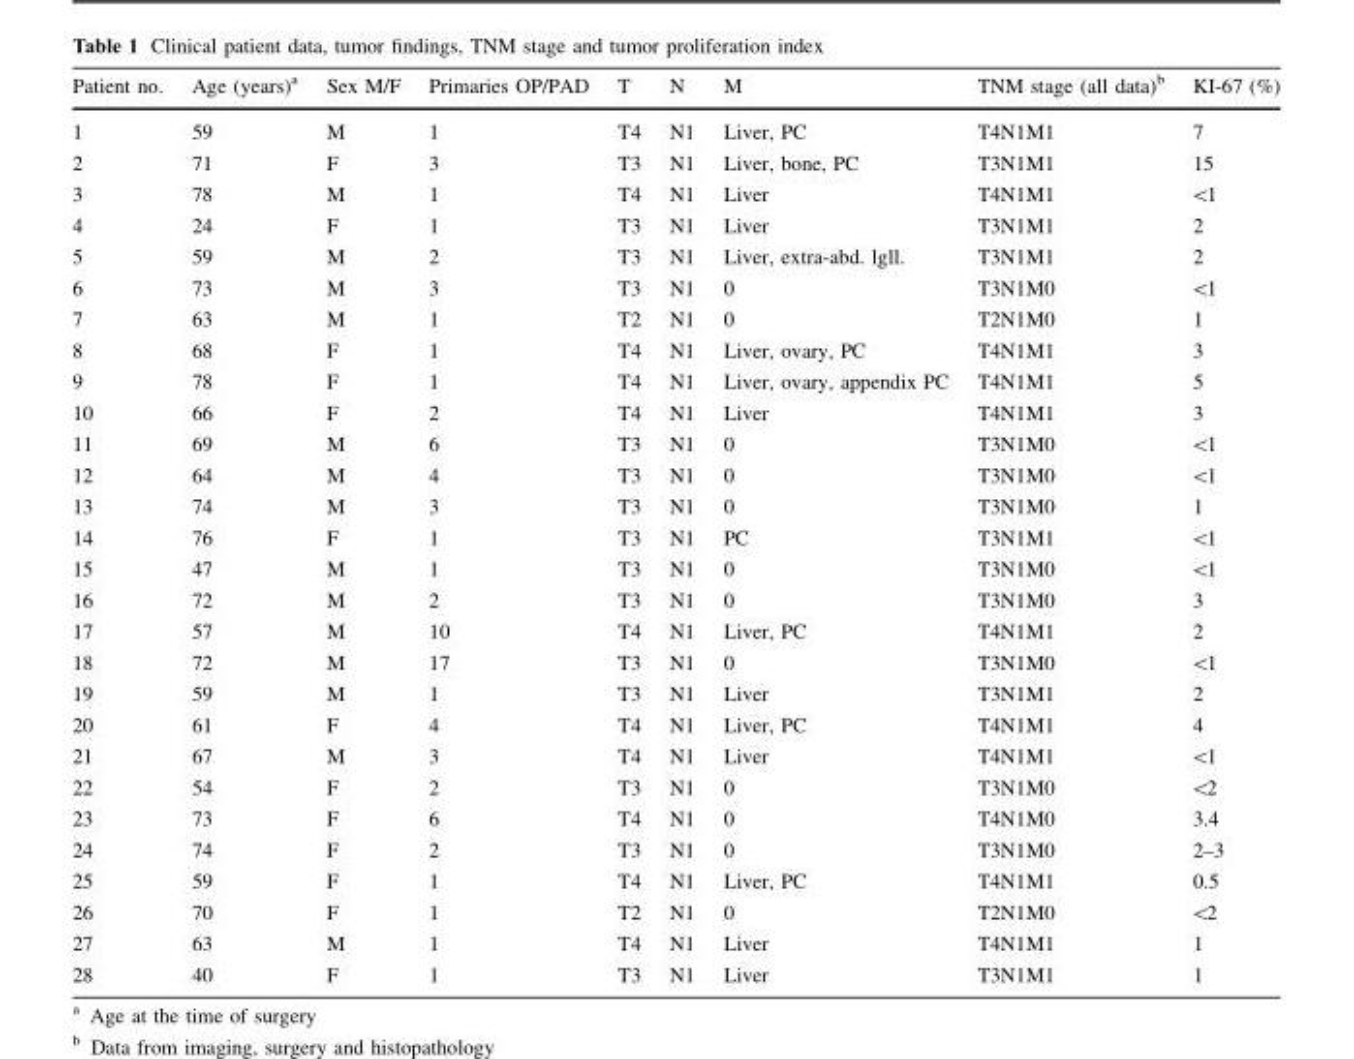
<table><thead><tr><td>Patient no.</td><td>Age (years)<sup>a</sup></td><td>Sex M/F</td><td>Primaries OP/PAD</td><td>T</td><td>N</td><td>M</td><td>TNM stage (all data)<sup>b</sup></td><td>KI-67 (%)</td></tr></thead><tbody><tr><td>1</td><td>59</td><td>M</td><td>1</td><td>T4</td><td>N1</td><td>Liver, PC</td><td>T4N1M1</td><td>7</td></tr><tr><td>2</td><td>71</td><td>F</td><td>3</td><td>T3</td><td>N1</td><td>Liver, bone, PC</td><td>T3N1M1</td><td>15</td></tr><tr><td>3</td><td>78</td><td>M</td><td>1</td><td>T4</td><td>N1</td><td>Liver</td><td>T4N1M1</td><td>&lt;1</td></tr><tr><td>4</td><td>24</td><td>F</td><td>1</td><td>T3</td><td>N1</td><td>Liver</td><td>T3N1M1</td><td>2</td></tr><tr><td>5</td><td>59</td><td>M</td><td>2</td><td>T3</td><td>N1</td><td>Liver, extra-abd. lgll.</td><td>T3N1M1</td><td>2</td></tr><tr><td>6</td><td>73</td><td>M</td><td>3</td><td>T3</td><td>N1</td><td>0</td><td>T3N1M0</td><td>&lt;1</td></tr><tr><td>7</td><td>63</td><td>M</td><td>1</td><td>T2</td><td>N1</td><td>0</td><td>T2N1M0</td><td>1</td></tr><tr><td>8</td><td>68</td><td>F</td><td>1</td><td>T4</td><td>N1</td><td>Liver, ovary, PC</td><td>T4N1M1</td><td>3</td></tr><tr><td>9</td><td>78</td><td>F</td><td>1</td><td>T4</td><td>N1</td><td>Liver, ovary, appendix PC</td><td>T4N1M1</td><td>5</td></tr><tr><td>10</td><td>66</td><td>F</td><td>2</td><td>T4</td><td>N1</td><td>Liver</td><td>T4N1M1</td><td>3</td></tr><tr><td>11</td><td>69</td><td>M</td><td>6</td><td>T3</td><td>N1</td><td>0</td><td>T3N1M0</td><td>&lt;1</td></tr><tr><td>12</td><td>64</td><td>M</td><td>4</td><td>T3</td><td>N1</td><td>0</td><td>T3N1M0</td><td>&lt;1</td></tr><tr><td>13</td><td>74</td><td>M</td><td>3</td><td>T3</td><td>N1</td><td>0</td><td>T3N1M0</td><td>1</td></tr><tr><td>14</td><td>76</td><td>F</td><td>1</td><td>T3</td><td>N1</td><td>PC</td><td>T3N1M1</td><td>&lt;1</td></tr><tr><td>15</td><td>47</td><td>M</td><td>1</td><td>T3</td><td>N1</td><td>0</td><td>T3N1M0</td><td>&lt;1</td></tr><tr><td>16</td><td>72</td><td>M</td><td>2</td><td>T3</td><td>N1</td><td>0</td><td>T3N1M0</td><td>3</td></tr><tr><td>17</td><td>57</td><td>M</td><td>10</td><td>T4</td><td>N1</td><td>Liver, PC</td><td>T4N1M1</td><td>2</td></tr><tr><td>18</td><td>72</td><td>M</td><td>17</td><td>T3</td><td>N1</td><td>0</td><td>T3N1M0</td><td>&lt;1</td></tr><tr><td>19</td><td>59</td><td>M</td><td>1</td><td>T3</td><td>N1</td><td>Liver</td><td>T3N1M1</td><td>2</td></tr><tr><td>20</td><td>61</td><td>F</td><td>4</td><td>T4</td><td>N1</td><td>Liver, PC</td><td>T4N1M1</td><td>4</td></tr><tr><td>21</td><td>67</td><td>M</td><td>3</td><td>T4</td><td>N1</td><td>Liver</td><td>T4N1M1</td><td>&lt;1</td></tr><tr><td>22</td><td>54</td><td>F</td><td>2</td><td>T3</td><td>N1</td><td>0</td><td>T3N1M0</td><td>&lt;2</td></tr><tr><td>23</td><td>73</td><td>F</td><td>6</td><td>T4</td><td>N1</td><td>0</td><td>T4N1M0</td><td>3.4</td></tr><tr><td>24</td><td>74</td><td>F</td><td>2</td><td>T3</td><td>N1</td><td>0</td><td>T3N1M0</td><td>2–3</td></tr><tr><td>25</td><td>59</td><td>F</td><td>1</td><td>T4</td><td>N1</td><td>Liver, PC</td><td>T4N1M1</td><td>0.5</td></tr><tr><td>26</td><td>70</td><td>F</td><td>1</td><td>T2</td><td>N1</td><td>0</td><td>T2N1M0</td><td>&lt;2</td></tr><tr><td>27</td><td>63</td><td>M</td><td>1</td><td>T4</td><td>N1</td><td>Liver</td><td>T4N1M1</td><td>1</td></tr><tr><td>28</td><td>40</td><td>F</td><td>1</td><td>T3</td><td>N1</td><td>Liver</td><td>T3N1M1</td><td>1</td></tr></tbody></table>